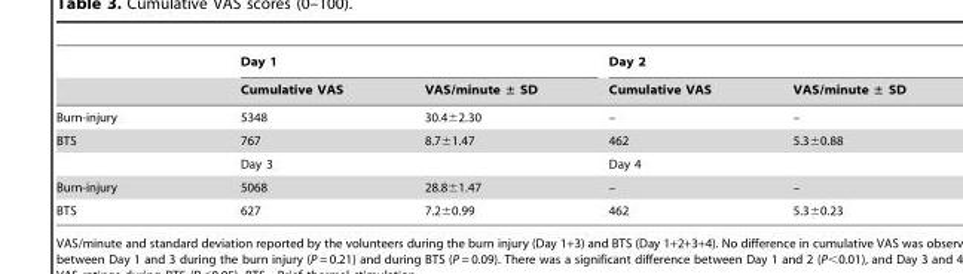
<table><thead><tr><td rowspan="2"></td><td colspan="2">Day 1</td><td colspan="2">Day 2</td></tr><tr><td>Cumulative VAS</td><td>VAS/minute ± SD</td><td>Cumulative VAS</td><td>VAS/minute ± SD</td></tr></thead><tbody><tr><td>Burn-injury</td><td>5348</td><td>30.4±2.30</td><td>–</td><td>–</td></tr><tr><td rowspan="2">BTS</td><td>767</td><td>8.7±1.47</td><td>462</td><td>5.3±0.88</td></tr><tr><td colspan="2">Day 3</td><td colspan="2">Day 4</td></tr><tr><td>Burn-injury</td><td>5068</td><td>28.8±1.47</td><td>–</td><td>–</td></tr><tr><td>BTS</td><td>627</td><td>7.2±0.99</td><td>462</td><td>5.3±0.23</td></tr></tbody></table>